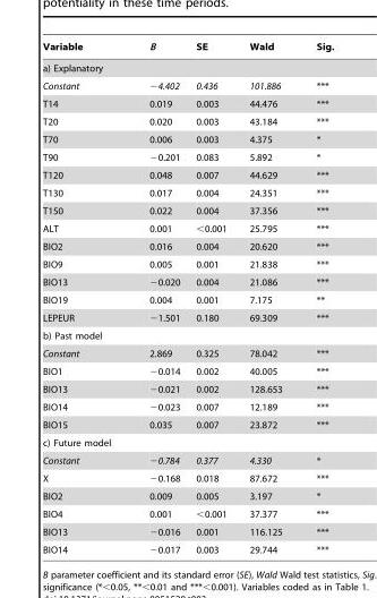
<table><thead><tr><td>Variable</td><td>B</td><td>SE</td><td>Wald</td><td>Sig.</td></tr></thead><tbody><tr><td colspan="5">a) Explanatory</td></tr><tr><td>Constant</td><td>−4.402</td><td>0.436</td><td>101.886</td><td>***</td></tr><tr><td>T14</td><td>0.019</td><td>0.003</td><td>44.476</td><td>***</td></tr><tr><td>T20</td><td>0.020</td><td>0.003</td><td>43.184</td><td>***</td></tr><tr><td>T70</td><td>0.006</td><td>0.003</td><td>4.375</td><td>*</td></tr><tr><td>T90</td><td>−0.201</td><td>0.083</td><td>5.892</td><td>*</td></tr><tr><td>T120</td><td>0.048</td><td>0.007</td><td>44.629</td><td>***</td></tr><tr><td>T130</td><td>0.017</td><td>0.004</td><td>24.351</td><td>***</td></tr><tr><td>T150</td><td>0.022</td><td>0.004</td><td>37.356</td><td>***</td></tr><tr><td>ALT</td><td>0.001</td><td>&lt;0.001</td><td>25.795</td><td>***</td></tr><tr><td>BIO2</td><td>0.016</td><td>0.004</td><td>20.620</td><td>***</td></tr><tr><td>BIO9</td><td>0.005</td><td>0.001</td><td>21.838</td><td>***</td></tr><tr><td>BIO13</td><td>−0.020</td><td>0.004</td><td>21.086</td><td>***</td></tr><tr><td>BIO19</td><td>0.004</td><td>0.001</td><td>7.175</td><td>**</td></tr><tr><td>LEPEUR</td><td>−1.501</td><td>0.180</td><td>69.309</td><td>***</td></tr><tr><td colspan="5">b) Past model</td></tr><tr><td>Constant</td><td>2.869</td><td>0.325</td><td>78.042</td><td>***</td></tr><tr><td>BIO1</td><td>−0.014</td><td>0.002</td><td>40.005</td><td>***</td></tr><tr><td>BIO13</td><td>−0.021</td><td>0.002</td><td>128.653</td><td>***</td></tr><tr><td>BIO14</td><td>−0.023</td><td>0.007</td><td>12.189</td><td>***</td></tr><tr><td>BIO15</td><td>0.035</td><td>0.007</td><td>23.872</td><td>***</td></tr><tr><td colspan="5">c) Future model</td></tr><tr><td>Constant</td><td>−0.784</td><td>0.377</td><td>4.330</td><td>*</td></tr><tr><td>X</td><td>−0.168</td><td>0.018</td><td>87.672</td><td>***</td></tr><tr><td>BIO2</td><td>0.009</td><td>0.005</td><td>3.197</td><td>*</td></tr><tr><td>BIO4</td><td>0.001</td><td>&lt;0.001</td><td>37.377</td><td>***</td></tr><tr><td>BIO13</td><td>−0.016</td><td>0.001</td><td>116.125</td><td>***</td></tr><tr><td>BIO14</td><td>−0.017</td><td>0.003</td><td>29.744</td><td>***</td></tr></tbody></table>